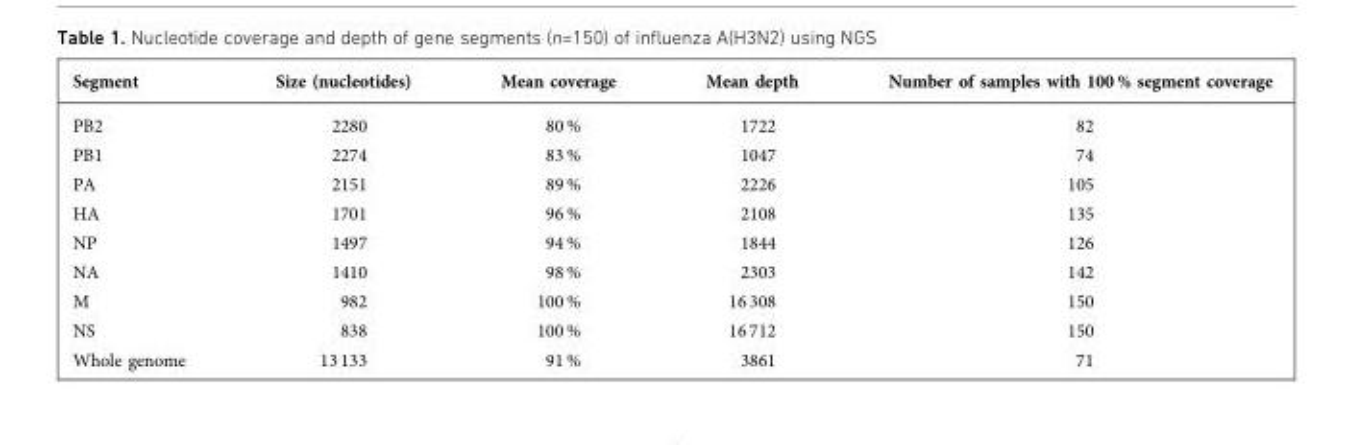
<table><thead><tr><td>Segment</td><td>Size (nucleotides)</td><td>Mean coverage</td><td>Mean depth</td><td>Number of samples with 100 % segment coverage</td></tr></thead><tbody><tr><td>PB2</td><td>2280</td><td>80 %</td><td>1722</td><td>82</td></tr><tr><td>PB1</td><td>2274</td><td>83 %</td><td>1047</td><td>74</td></tr><tr><td>PA</td><td>2151</td><td>89 %</td><td>2226</td><td>105</td></tr><tr><td>HA</td><td>1701</td><td>96 %</td><td>2108</td><td>135</td></tr><tr><td>NP</td><td>1497</td><td>94 %</td><td>1844</td><td>126</td></tr><tr><td>NA</td><td>1410</td><td>98 %</td><td>2303</td><td>142</td></tr><tr><td>M</td><td>982</td><td>100 %</td><td>16 308</td><td>150</td></tr><tr><td>NS</td><td>838</td><td>100 %</td><td>16 712</td><td>150</td></tr><tr><td>Whole genome</td><td>13 133</td><td>91 %</td><td>3861</td><td>71</td></tr></tbody></table>